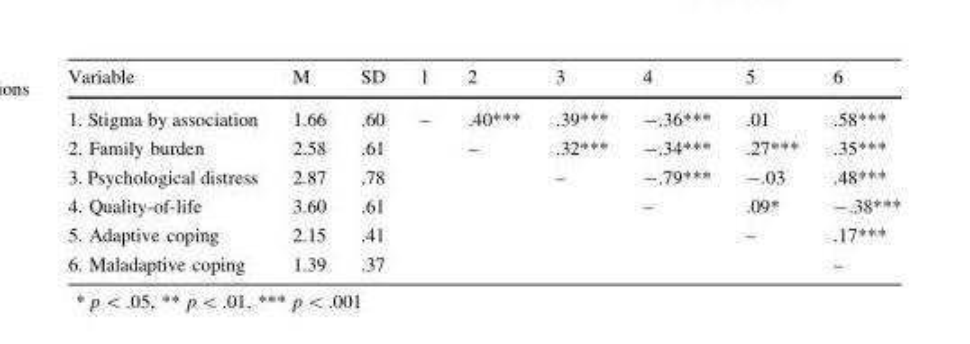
<table><thead><tr><td>Variable</td><td>M</td><td>SD</td><td>1</td><td>2</td><td>3</td><td>4</td><td>5</td><td>6</td></tr></thead><tbody><tr><td>1. Stigma by association</td><td>1.66</td><td>.60</td><td>–</td><td>.40***</td><td>.39***</td><td>-.36***</td><td>.01</td><td>.58***</td></tr><tr><td>2. Family burden</td><td>2.58</td><td>.61</td><td></td><td>–</td><td>.32***</td><td>-.34***</td><td>.27***</td><td>.35***</td></tr><tr><td>3. Psychological distress</td><td>2.87</td><td>.78</td><td></td><td></td><td>–</td><td>-.79***</td><td>-.03</td><td>.48***</td></tr><tr><td>4. Quality-of-life</td><td>3.60</td><td>.61</td><td></td><td></td><td></td><td>–</td><td>.09*</td><td>-.38***</td></tr><tr><td>5. Adaptive coping</td><td>2.15</td><td>.41</td><td></td><td></td><td></td><td></td><td>–</td><td>.17***</td></tr><tr><td>6. Maladaptive coping</td><td>1.39</td><td>.37</td><td></td><td></td><td></td><td></td><td></td><td>–</td></tr></tbody></table>